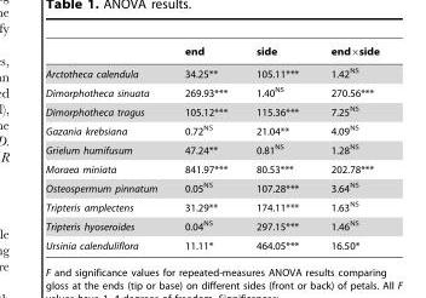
<table><thead><tr><td></td><td>end</td><td>side</td><td>end×side</td></tr></thead><tbody><tr><td>Arctotheca calendula</td><td>34.25**</td><td>105.11***</td><td>1.42<sup>NS</sup></td></tr><tr><td>Dimorphotheca sinuata</td><td>269.93***</td><td>1.40<sup>NS</sup></td><td>270.56***</td></tr><tr><td>Dimorphotheca tragus</td><td>105.12***</td><td>115.36***</td><td>7.25<sup>NS</sup></td></tr><tr><td>Gazania krebsiana</td><td>0.72<sup>NS</sup></td><td>21.04**</td><td>4.09<sup>NS</sup></td></tr><tr><td>Grielum humifusum</td><td>47.24**</td><td>0.81<sup>NS</sup></td><td>1.28<sup>NS</sup></td></tr><tr><td>Moraea miniata</td><td>841.97***</td><td>80.53***</td><td>202.78***</td></tr><tr><td>Osteospermum pinnatum</td><td>0.05<sup>NS</sup></td><td>107.28***</td><td>3.64<sup>NS</sup></td></tr><tr><td>Tripteris amplectens</td><td>31.29**</td><td>174.11***</td><td>1.63<sup>NS</sup></td></tr><tr><td>Tripteris hyoseroides</td><td>0.04<sup>NS</sup></td><td>297.15***</td><td>1.46<sup>NS</sup></td></tr><tr><td>Ursinia calenduliflora</td><td>11.11*</td><td>464.05***</td><td>16.50*</td></tr></tbody></table>